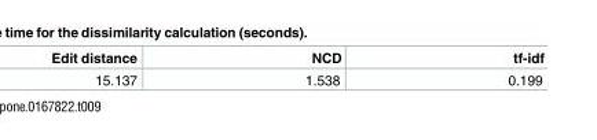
<table><thead><tr><td>Edit distance</td><td>NCD</td><td>tf-idf</td></tr></thead><tbody><tr><td>15.137</td><td>1.538</td><td>0.199</td></tr></tbody></table>